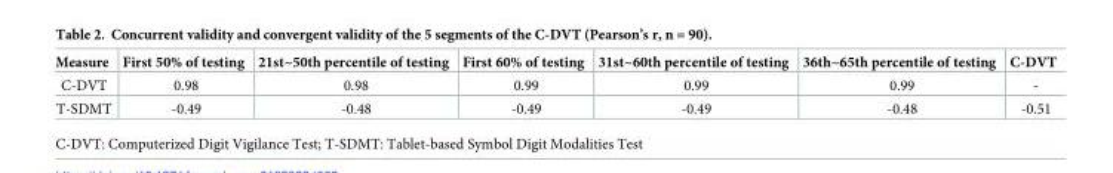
<table><thead><tr><td>Measure</td><td>First 50% of testing</td><td>21st~50th percentile of testing</td><td>First 60% of testing</td><td>31st~60th percentile of testing</td><td>36th~65th percentile of testing</td><td>C-DVT</td></tr></thead><tbody><tr><td>C-DVT</td><td>0.98</td><td>0.98</td><td>0.99</td><td>0.99</td><td>0.99</td><td>-</td></tr><tr><td>T-SDMT</td><td>-0.49</td><td>-0.48</td><td>-0.49</td><td>-0.49</td><td>-0.48</td><td>-0.51</td></tr></tbody></table>